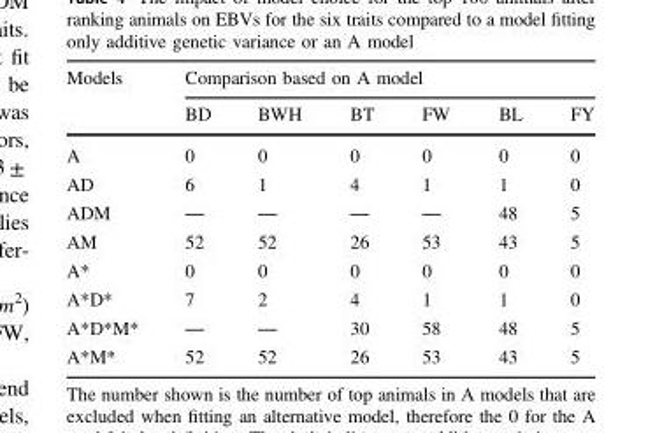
<table><thead><tr><td rowspan="2">Models</td><td colspan="6">Comparison based on A model</td></tr><tr><td>BD</td><td>BWH</td><td>BT</td><td>FW</td><td>BL</td><td>FY</td></tr></thead><tbody><tr><td>A</td><td>0</td><td>0</td><td>0</td><td>0</td><td>0</td><td>0</td></tr><tr><td>AD</td><td>6</td><td>1</td><td>4</td><td>1</td><td>1</td><td>0</td></tr><tr><td>ADM</td><td>—</td><td>—</td><td>—</td><td>—</td><td>48</td><td>5</td></tr><tr><td>AM</td><td>52</td><td>52</td><td>26</td><td>53</td><td>43</td><td>5</td></tr><tr><td>A*</td><td>0</td><td>0</td><td>0</td><td>0</td><td>0</td><td>0</td></tr><tr><td>A*D*</td><td>7</td><td>2</td><td>4</td><td>1</td><td>1</td><td>0</td></tr><tr><td>A*D*M*</td><td>—</td><td>—</td><td>30</td><td>58</td><td>48</td><td>5</td></tr><tr><td>A*M*</td><td>52</td><td>52</td><td>26</td><td>53</td><td>43</td><td>5</td></tr></tbody></table>